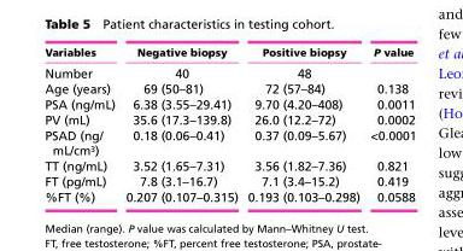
<table><thead><tr><td>Variables</td><td>Negative biopsy</td><td>Positive biopsy</td><td>P value</td></tr></thead><tbody><tr><td>Number</td><td>40</td><td>48</td><td></td></tr><tr><td>Age (years)</td><td>69 (50–81)</td><td>72 (57–84)</td><td>0.138</td></tr><tr><td>PSA (ng/mL)</td><td>6.38 (3.55–29.41)</td><td>9.70 (4.20–408)</td><td>0.0011</td></tr><tr><td>PV (mL)</td><td>35.6 (17.3–139.8)</td><td>26.0 (12.2–72)</td><td>0.0002</td></tr><tr><td>PSAD (ng/ mL/cm<sup>3</sup>)</td><td>0.18 (0.06–0.41)</td><td>0.37 (0.09–5.67)</td><td>&lt;0.0001</td></tr><tr><td>TT (ng/mL)</td><td>3.52 (1.65–7.31)</td><td>3.56 (1.82–7.36)</td><td>0.821</td></tr><tr><td>FT (pg/mL)</td><td>7.8 (3.1–16.7)</td><td>7.1 (3.4–15.2)</td><td>0.419</td></tr><tr><td>%FT (%)</td><td>0.207 (0.107–0.315)</td><td>0.193 (0.103–0.298)</td><td>0.0588</td></tr></tbody></table>